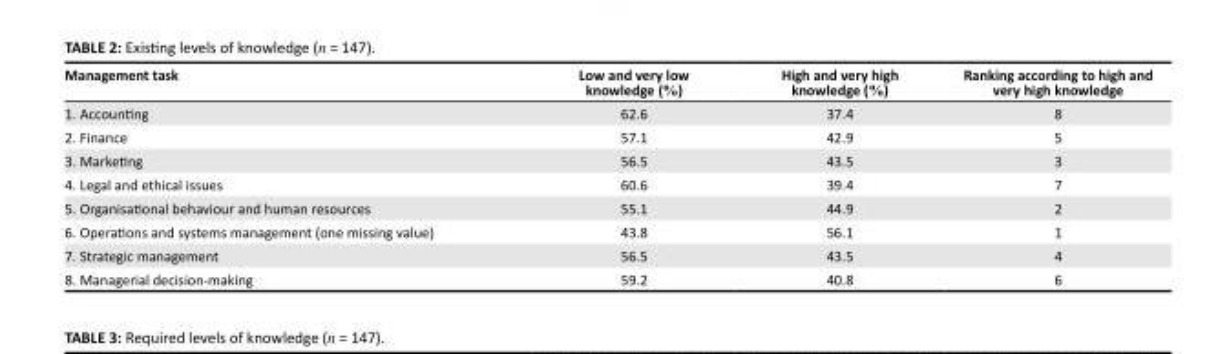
<table><thead><tr><td>Management task</td><td>Low and very low knowledge (%)</td><td>High and very high knowledge (%)</td><td>Ranking according to high and very high knowledge</td></tr></thead><tbody><tr><td>1. Accounting</td><td>62.6</td><td>37.4</td><td>8</td></tr><tr><td>2. Finance</td><td>57.1</td><td>42.9</td><td>5</td></tr><tr><td>3. Marketing</td><td>56.5</td><td>43.5</td><td>3</td></tr><tr><td>4. Legal and ethical issues</td><td>60.6</td><td>39.4</td><td>7</td></tr><tr><td>5. Organisational behaviour and human resources</td><td>55.1</td><td>44.9</td><td>2</td></tr><tr><td>6. Operations and systems management (one missing value)</td><td>43.8</td><td>56.1</td><td>1</td></tr><tr><td>7. Strategic management</td><td>56.5</td><td>43.5</td><td>4</td></tr><tr><td>8. Managerial decision-making</td><td>59.2</td><td>40.8</td><td>6</td></tr></tbody></table>